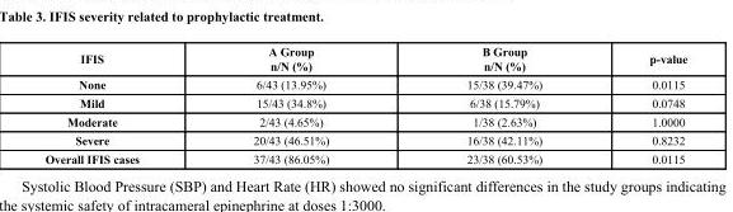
<table><thead><tr><td>IFIS</td><td>A Group n/N (%)</td><td>B Group n/N (%)</td><td>p-value</td></tr></thead><tbody><tr><td>None</td><td>6/43 (13.95%)</td><td>15/38 (39.47%)</td><td>0.0115</td></tr><tr><td>Mild</td><td>15/43 (34.8%)</td><td>6/38 (15.79%)</td><td>0.0748</td></tr><tr><td>Moderate</td><td>2/43 (4.65%)</td><td>1/38 (2.63%)</td><td>1.0000</td></tr><tr><td>Severe</td><td>20/43 (46.51%)</td><td>16/38 (42.11%)</td><td>0.8232</td></tr><tr><td>Overall IFIS cases</td><td>37/43 (86.05%)</td><td>23/38 (60.53%)</td><td>0.0115</td></tr></tbody></table>